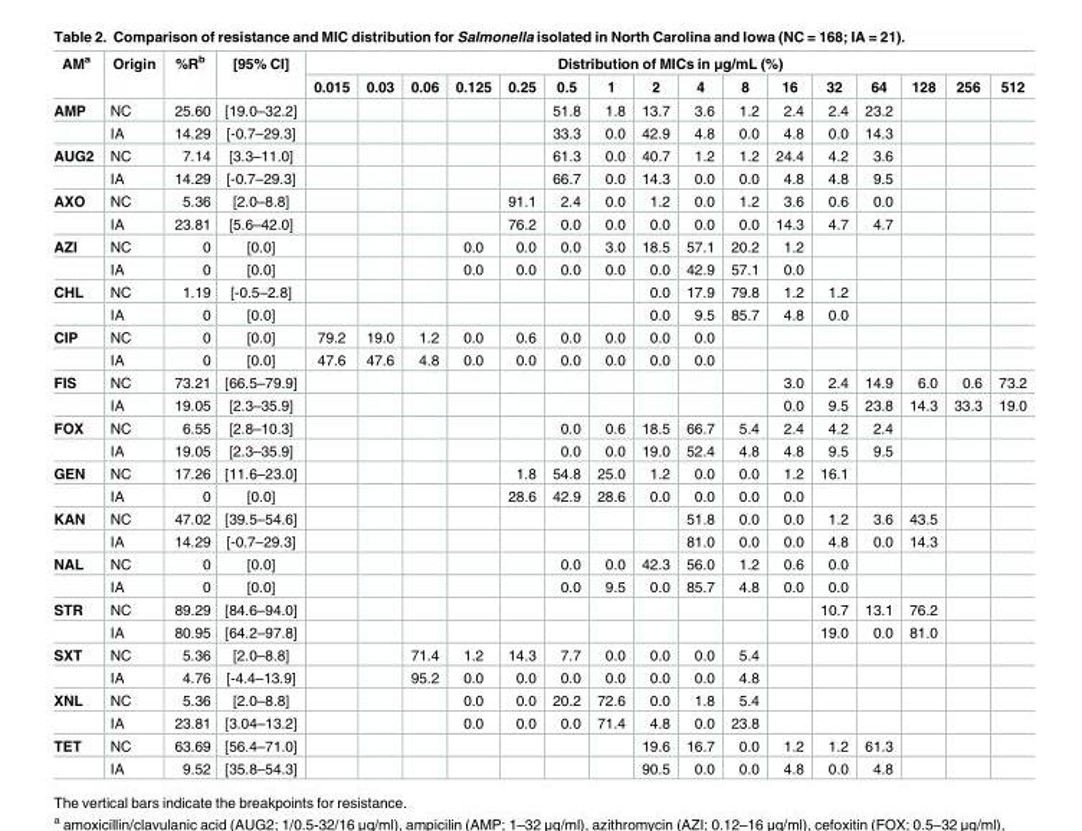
<table><thead><tr><td rowspan="2">AM<sup>a</sup></td><td rowspan="2">Origin</td><td rowspan="2">%R<sup>b</sup></td><td rowspan="2">[95% CI]</td><td colspan="16">Distribution of MICs in μg/mL (%)</td></tr><tr><td>0.015</td><td>0.03</td><td>0.06</td><td>0.125</td><td>0.25</td><td>0.5</td><td>1</td><td>2</td><td>4</td><td>8</td><td>16</td><td>32</td><td>64</td><td>128</td><td>256</td><td>512</td></tr></thead><tbody><tr><td rowspan="2">AMP</td><td>NC</td><td>25.60</td><td>[19.0–32.2]</td><td></td><td></td><td></td><td></td><td></td><td>51.8</td><td>1.8</td><td>13.7</td><td>3.6</td><td>1.2</td><td>2.4</td><td>2.4</td><td>23.2</td><td></td><td></td><td></td></tr><tr><td>IA</td><td>14.29</td><td>[-0.7–29.3]</td><td></td><td></td><td></td><td></td><td></td><td>33.3</td><td>0.0</td><td>42.9</td><td>4.8</td><td>0.0</td><td>4.8</td><td>0.0</td><td>14.3</td><td></td><td></td><td></td></tr><tr><td rowspan="2">AUG2</td><td>NC</td><td>7.14</td><td>[3.3–11.0]</td><td></td><td></td><td></td><td></td><td></td><td>61.3</td><td>0.0</td><td>40.7</td><td>1.2</td><td>1.2</td><td>24.4</td><td>4.2</td><td>3.6</td><td></td><td></td><td></td></tr><tr><td>IA</td><td>14.29</td><td>[-0.7–29.3]</td><td></td><td></td><td></td><td></td><td></td><td>66.7</td><td>0.0</td><td>14.3</td><td>0.0</td><td>0.0</td><td>4.8</td><td>4.8</td><td>9.5</td><td></td><td></td><td></td></tr><tr><td rowspan="2">AXO</td><td>NC</td><td>5.36</td><td>[2.0–8.8]</td><td></td><td></td><td></td><td></td><td>91.1</td><td>2.4</td><td>0.0</td><td>1.2</td><td>0.0</td><td>1.2</td><td>3.6</td><td>0.6</td><td>0.0</td><td></td><td></td><td></td></tr><tr><td>IA</td><td>23.81</td><td>[5.6–42.0]</td><td></td><td></td><td></td><td></td><td>76.2</td><td>0.0</td><td>0.0</td><td>0.0</td><td>0.0</td><td>0.0</td><td>14.3</td><td>4.7</td><td>4.7</td><td></td><td></td><td></td></tr><tr><td rowspan="2">AZI</td><td>NC</td><td>0</td><td>[0.0]</td><td></td><td></td><td></td><td>0.0</td><td>0.0</td><td>0.0</td><td>3.0</td><td>18.5</td><td>57.1</td><td>20.2</td><td>1.2</td><td></td><td></td><td></td><td></td><td></td></tr><tr><td>IA</td><td>0</td><td>[0.0]</td><td></td><td></td><td></td><td>0.0</td><td>0.0</td><td>0.0</td><td>0.0</td><td>0.0</td><td>42.9</td><td>57.1</td><td>0.0</td><td></td><td></td><td></td><td></td><td></td></tr><tr><td rowspan="2">CHL</td><td>NC</td><td>1.19</td><td>[-0.5–2.8]</td><td></td><td></td><td></td><td></td><td></td><td></td><td></td><td>0.0</td><td>17.9</td><td>79.8</td><td>1.2</td><td>1.2</td><td></td><td></td><td></td><td></td></tr><tr><td>IA</td><td>0</td><td>[0.0]</td><td></td><td></td><td></td><td></td><td></td><td></td><td></td><td>0.0</td><td>9.5</td><td>85.7</td><td>4.8</td><td>0.0</td><td></td><td></td><td></td><td></td></tr><tr><td rowspan="2">CIP</td><td>NC</td><td>0</td><td>[0.0]</td><td>79.2</td><td>19.0</td><td>1.2</td><td>0.0</td><td>0.6</td><td>0.0</td><td>0.0</td><td>0.0</td><td>0.0</td><td></td><td></td><td></td><td></td><td></td><td></td><td></td></tr><tr><td>IA</td><td>0</td><td>[0.0]</td><td>47.6</td><td>47.6</td><td>4.8</td><td>0.0</td><td>0.0</td><td>0.0</td><td>0.0</td><td>0.0</td><td>0.0</td><td></td><td></td><td></td><td></td><td></td><td></td><td></td></tr><tr><td rowspan="2">FIS</td><td>NC</td><td>73.21</td><td>[66.5–79.9]</td><td></td><td></td><td></td><td></td><td></td><td></td><td></td><td></td><td></td><td></td><td>3.0</td><td>2.4</td><td>14.9</td><td>6.0</td><td>0.6</td><td>73.2</td></tr><tr><td>IA</td><td>19.05</td><td>[2.3–35.9]</td><td></td><td></td><td></td><td></td><td></td><td></td><td></td><td></td><td></td><td></td><td>0.0</td><td>9.5</td><td>23.8</td><td>14.3</td><td>33.3</td><td>19.0</td></tr><tr><td rowspan="2">FOX</td><td>NC</td><td>6.55</td><td>[2.8–10.3]</td><td></td><td></td><td></td><td></td><td></td><td>0.0</td><td>0.6</td><td>18.5</td><td>66.7</td><td>5.4</td><td>2.4</td><td>4.2</td><td>2.4</td><td></td><td></td><td></td></tr><tr><td>IA</td><td>19.05</td><td>[2.3–35.9]</td><td></td><td></td><td></td><td></td><td></td><td>0.0</td><td>0.0</td><td>19.0</td><td>52.4</td><td>4.8</td><td>4.8</td><td>9.5</td><td>9.5</td><td></td><td></td><td></td></tr><tr><td rowspan="2">GEN</td><td>NC</td><td>17.26</td><td>[11.6–23.0]</td><td></td><td></td><td></td><td></td><td>1.8</td><td>54.8</td><td>25.0</td><td>1.2</td><td>0.0</td><td>0.0</td><td>1.2</td><td>16.1</td><td></td><td></td><td></td><td></td></tr><tr><td>IA</td><td>0</td><td>[0.0]</td><td></td><td></td><td></td><td></td><td>28.6</td><td>42.9</td><td>28.6</td><td>0.0</td><td>0.0</td><td>0.0</td><td>0.0</td><td></td><td></td><td></td><td></td><td></td></tr><tr><td rowspan="2">KAN</td><td>NC</td><td>47.02</td><td>[39.5–54.6]</td><td></td><td></td><td></td><td></td><td></td><td></td><td></td><td></td><td>51.8</td><td>0.0</td><td>0.0</td><td>1.2</td><td>3.6</td><td>43.5</td><td></td><td></td></tr><tr><td>IA</td><td>14.29</td><td>[-0.7–29.3]</td><td></td><td></td><td></td><td></td><td></td><td></td><td></td><td></td><td>81.0</td><td>0.0</td><td>0.0</td><td>4.8</td><td>0.0</td><td>14.3</td><td></td><td></td></tr><tr><td rowspan="2">NAL</td><td>NC</td><td>0</td><td>[0.0]</td><td></td><td></td><td></td><td></td><td></td><td>0.0</td><td>0.0</td><td>42.3</td><td>56.0</td><td>1.2</td><td>0.6</td><td>0.0</td><td></td><td></td><td></td><td></td></tr><tr><td>IA</td><td>0</td><td>[0.0]</td><td></td><td></td><td></td><td></td><td></td><td>0.0</td><td>9.5</td><td>0.0</td><td>85.7</td><td>4.8</td><td>0.0</td><td>0.0</td><td></td><td></td><td></td><td></td></tr><tr><td rowspan="2">STR</td><td>NC</td><td>89.29</td><td>[84.6–94.0]</td><td></td><td></td><td></td><td></td><td></td><td></td><td></td><td></td><td></td><td></td><td></td><td>10.7</td><td>13.1</td><td>76.2</td><td></td><td></td></tr><tr><td>IA</td><td>80.95</td><td>[64.2–97.8]</td><td></td><td></td><td></td><td></td><td></td><td></td><td></td><td></td><td></td><td></td><td></td><td>19.0</td><td>0.0</td><td>81.0</td><td></td><td></td></tr><tr><td rowspan="2">SXT</td><td>NC</td><td>5.36</td><td>[2.0–8.8]</td><td></td><td></td><td>71.4</td><td>1.2</td><td>14.3</td><td>7.7</td><td>0.0</td><td>0.0</td><td>0.0</td><td>5.4</td><td></td><td></td><td></td><td></td><td></td><td></td></tr><tr><td>IA</td><td>4.76</td><td>[-4.4–13.9]</td><td></td><td></td><td>95.2</td><td>0.0</td><td>0.0</td><td>0.0</td><td>0.0</td><td>0.0</td><td>0.0</td><td>4.8</td><td></td><td></td><td></td><td></td><td></td><td></td></tr><tr><td rowspan="2">XNL</td><td>NC</td><td>5.36</td><td>[2.0–8.8]</td><td></td><td></td><td></td><td>0.0</td><td>0.0</td><td>20.2</td><td>72.6</td><td>0.0</td><td>1.8</td><td>5.4</td><td></td><td></td><td></td><td></td><td></td><td></td></tr><tr><td>IA</td><td>23.81</td><td>[3.04–13.2]</td><td></td><td></td><td></td><td>0.0</td><td>0.0</td><td>0.0</td><td>71.4</td><td>4.8</td><td>0.0</td><td>23.8</td><td></td><td></td><td></td><td></td><td></td><td></td></tr><tr><td rowspan="2">TET</td><td>NC</td><td>63.69</td><td>[56.4–71.0]</td><td></td><td></td><td></td><td></td><td></td><td></td><td></td><td>19.6</td><td>16.7</td><td>0.0</td><td>1.2</td><td>1.2</td><td>61.3</td><td></td><td></td><td></td></tr><tr><td>IA</td><td>9.52</td><td>[35.8–54.3]</td><td></td><td></td><td></td><td></td><td></td><td></td><td></td><td>90.5</td><td>0.0</td><td>0.0</td><td>4.8</td><td>0.0</td><td>4.8</td><td></td><td></td><td></td></tr></tbody></table>